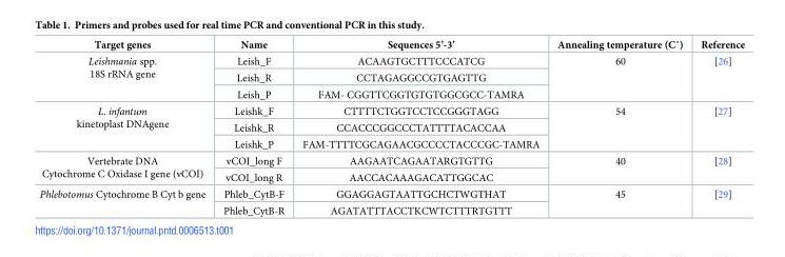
<table><thead><tr><td>Target genes</td><td>Name</td><td>Sequences 5’-3’</td><td>Annealing temperature (C˚)</td><td>Reference</td></tr></thead><tbody><tr><td rowspan="3">Leishmania spp. 18S rRNA gene</td><td>Leish_F</td><td>ACAAGTGCTTTCCCATCG</td><td rowspan="3">60</td><td rowspan="3">[26]</td></tr><tr><td>Leish_R</td><td>CCTAGAGGCCGTGAGTTG</td></tr><tr><td>Leish_P</td><td>FAM- CGGTTCGGTGTGTGGCGCC-TAMRA</td></tr><tr><td rowspan="3">L. infantum kinetoplast DNAgene</td><td>Leishk_F</td><td>CTTTTCTGGTCCTCCGGGTAGG</td><td rowspan="3">54</td><td rowspan="3">[27]</td></tr><tr><td>Leishk_R</td><td>CCACCCGGCCCTATTTTACACCAA</td></tr><tr><td>Leishk_P</td><td>FAM-TTTTCGCAGAACGCCCCTACCCGC-TAMRA</td></tr><tr><td rowspan="2">Vertebrate DNA Cytochrome C Oxidase I gene (vCOI)</td><td>vCOI_long F</td><td>AAGAATCAGAATARGTGTTG</td><td rowspan="2">40</td><td rowspan="2">[28]</td></tr><tr><td>vCOI_long R</td><td>AACCACAAAGACATTGGCAC</td></tr><tr><td rowspan="2">Phlebotomus Cytochrome B Cyt b gene</td><td>Phleb_CytB-F</td><td>GGAGGAGTAATTGCHCTWGTHAT</td><td rowspan="2">45</td><td rowspan="2">[29]</td></tr><tr><td>Phleb_CytB-R</td><td>AGATATTTACCTKCWTCTTTRTGTTT</td></tr></tbody></table>